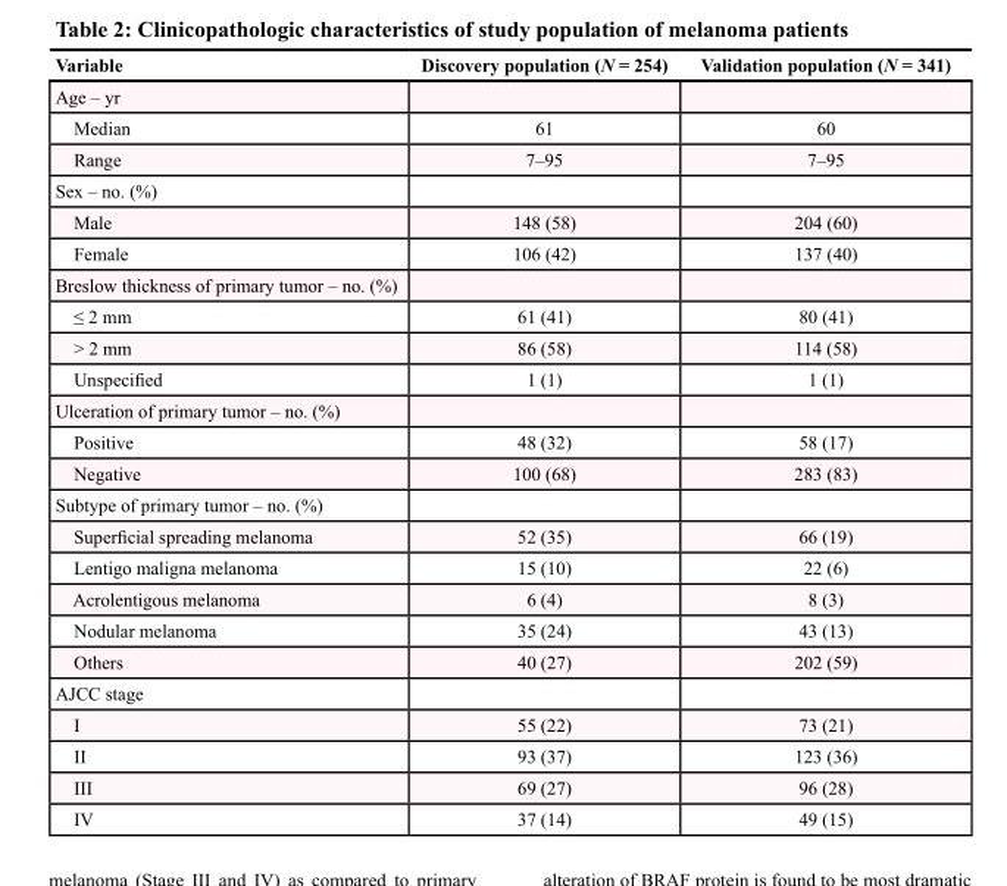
<table><thead><tr><td>Variable</td><td>Discovery population (N = 254)</td><td>Validation population (N = 341)</td></tr></thead><tbody><tr><td colspan="3">Age – yr</td></tr><tr><td>Median</td><td>61</td><td>60</td></tr><tr><td>Range</td><td>7–95</td><td>7–95</td></tr><tr><td colspan="3">Sex – no. (%)</td></tr><tr><td>Male</td><td>148 (58)</td><td>204 (60)</td></tr><tr><td>Female</td><td>106 (42)</td><td>137 (40)</td></tr><tr><td colspan="3">Breslow thickness of primary tumor – no. (%)</td></tr><tr><td>≤ 2 mm</td><td>61 (41)</td><td>80 (41)</td></tr><tr><td>&gt; 2 mm</td><td>86 (58)</td><td>114 (58)</td></tr><tr><td>Unspecified</td><td>1 (1)</td><td>1 (1)</td></tr><tr><td colspan="3">Ulceration of primary tumor – no. (%)</td></tr><tr><td>Positive</td><td>48 (32)</td><td>58 (17)</td></tr><tr><td>Negative</td><td>100 (68)</td><td>283 (83)</td></tr><tr><td colspan="3">Subtype of primary tumor – no. (%)</td></tr><tr><td>Superficial spreading melanoma</td><td>52 (35)</td><td>66 (19)</td></tr><tr><td>Lentigo maligna melanoma</td><td>15 (10)</td><td>22 (6)</td></tr><tr><td>Acrolentigous melanoma</td><td>6 (4)</td><td>8 (3)</td></tr><tr><td>Nodular melanoma</td><td>35 (24)</td><td>43 (13)</td></tr><tr><td>Others</td><td>40 (27)</td><td>202 (59)</td></tr><tr><td colspan="3">AJCC stage</td></tr><tr><td>I</td><td>55 (22)</td><td>73 (21)</td></tr><tr><td>II</td><td>93 (37)</td><td>123 (36)</td></tr><tr><td>III</td><td>69 (27)</td><td>96 (28)</td></tr><tr><td>IV</td><td>37 (14)</td><td>49 (15)</td></tr></tbody></table>